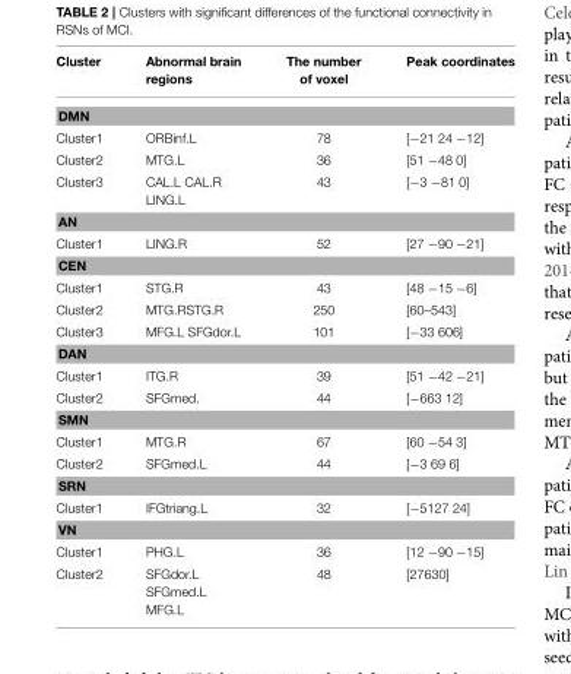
<table><thead><tr><td>Cluster</td><td>Abnormal brain regions</td><td>The number of voxel</td><td>Peak coordinates</td></tr></thead><tbody><tr><td colspan="4">DMN</td></tr><tr><td>Cluster1</td><td>ORBinf.L</td><td>78</td><td>[−21 24 −12]</td></tr><tr><td>Cluster2</td><td>MTG.L</td><td>36</td><td>[51 −48 0]</td></tr><tr><td>Cluster3</td><td>CAL.L CAL.R LING.L</td><td>43</td><td>[−3 −81 0]</td></tr><tr><td colspan="4">AN</td></tr><tr><td>Cluster1</td><td>LING.R</td><td>52</td><td>[27 −90 −21]</td></tr><tr><td colspan="4">CEN</td></tr><tr><td>Cluster1</td><td>STG.R</td><td>43</td><td>[48 −15 −6]</td></tr><tr><td>Cluster2</td><td>MTG.RSTG.R</td><td>250</td><td>[60–543]</td></tr><tr><td>Cluster3</td><td>MFG.L SFGdor.L</td><td>101</td><td>[−33 606]</td></tr><tr><td colspan="4">DAN</td></tr><tr><td>Cluster1</td><td>ITG.R</td><td>39</td><td>[51 −42 −21]</td></tr><tr><td>Cluster2</td><td>SFGmed.</td><td>44</td><td>[−663 12]</td></tr><tr><td colspan="4">SMN</td></tr><tr><td>Cluster1</td><td>MTG.R</td><td>67</td><td>[60 −54 3]</td></tr><tr><td>Cluster2</td><td>SFGmed.L</td><td>44</td><td>[−3 69 6]</td></tr><tr><td colspan="4">SRN</td></tr><tr><td>Cluster1</td><td>IFGtriang.L</td><td>32</td><td>[−5127 24]</td></tr><tr><td colspan="4">VN</td></tr><tr><td>Cluster1</td><td>PHG.L</td><td>36</td><td>[12 −90 −15]</td></tr><tr><td>Cluster2</td><td>SFGdor.L SFGmed.L MFG.L</td><td>48</td><td>[27630]</td></tr></tbody></table>